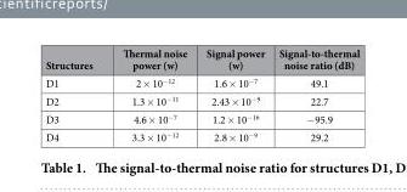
<table><thead><tr><td>Structures</td><td>Thermal noise power (w)</td><td>Signal power (w)</td><td>Signal-to-thermal noise ratio (dB)</td></tr></thead><tbody><tr><td>D1</td><td>2 × 10<sup>−12</sup></td><td>1.6 × 10<sup>−7</sup></td><td>49.1</td></tr><tr><td>D2</td><td>1.3 × 10<sup>−11</sup></td><td>2.43 × 10<sup>−9</sup></td><td>22.7</td></tr><tr><td>D3</td><td>4.6 × 10<sup>−7</sup></td><td>1.2 × 10<sup>−16</sup></td><td>− 95.9</td></tr><tr><td>D4</td><td>3.3 × 10<sup>−12</sup></td><td>2.8 × 10<sup>−9</sup></td><td>29.2</td></tr></tbody></table>